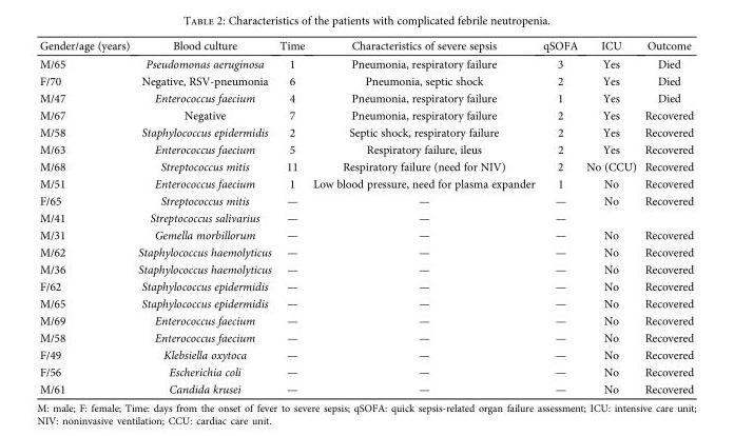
<table><thead><tr><td>Gender/age (years)</td><td>Blood culture</td><td>Time</td><td>Characteristics of severe sepsis</td><td>qSOFA</td><td>ICU</td><td>Outcome</td></tr></thead><tbody><tr><td>M/65</td><td>Pseudomonas aeruginosa</td><td>1</td><td>Pneumonia, respiratory failure</td><td>3</td><td>Yes</td><td>Died</td></tr><tr><td>F/70</td><td>Negative, RSV-pneumonia</td><td>6</td><td>Pneumonia, septic shock</td><td>2</td><td>Yes</td><td>Died</td></tr><tr><td>M/47</td><td>Enterococcus faecium</td><td>4</td><td>Pneumonia, respiratory failure</td><td>1</td><td>Yes</td><td>Died</td></tr><tr><td>M/67</td><td>Negative</td><td>7</td><td>Pneumonia, respiratory failure</td><td>2</td><td>Yes</td><td>Recovered</td></tr><tr><td>M/58</td><td>Staphylococcus epidermidis</td><td>2</td><td>Septic shock, respiratory failure</td><td>2</td><td>Yes</td><td>Recovered</td></tr><tr><td>M/63</td><td>Enterococcus faecium</td><td>5</td><td>Respiratory failure, ileus</td><td>2</td><td>Yes</td><td>Recovered</td></tr><tr><td>M/68</td><td>Streptococcus mitis</td><td>11</td><td>Respiratory failure (need for NIV)</td><td>2</td><td>No (CCU)</td><td>Recovered</td></tr><tr><td>M/51</td><td>Enterococcus faecium</td><td>1</td><td>Low blood pressure, need for plasma expander</td><td>1</td><td>No</td><td>Recovered</td></tr><tr><td>F/65</td><td>Streptococcus mitis</td><td>—</td><td>—</td><td>—</td><td>No</td><td>Recovered</td></tr><tr><td>M/41</td><td>Streptococcus salivarius</td><td>—</td><td>—</td><td>—</td><td></td><td></td></tr><tr><td>M/31</td><td>Gemella morbillorum</td><td>—</td><td>—</td><td>—</td><td>No</td><td>Recovered</td></tr><tr><td>M/62</td><td>Staphylococcus haemolyticus</td><td>—</td><td>—</td><td>—</td><td>No</td><td>Recovered</td></tr><tr><td>M/36</td><td>Staphylococcus haemolyticus</td><td>—</td><td>—</td><td>—</td><td>No</td><td>Recovered</td></tr><tr><td>F/62</td><td>Staphylococcus epidermidis</td><td>—</td><td>—</td><td>—</td><td>No</td><td>Recovered</td></tr><tr><td>M/65</td><td>Staphylococcus epidermidis</td><td>—</td><td>—</td><td>—</td><td>No</td><td>Recovered</td></tr><tr><td>M/69</td><td>Enterococcus faecium</td><td>—</td><td>—</td><td>—</td><td>No</td><td>Recovered</td></tr><tr><td>M/58</td><td>Enterococcus faecium</td><td>—</td><td>—</td><td>—</td><td>No</td><td>Recovered</td></tr><tr><td>F/49</td><td>Klebsiella oxytoca</td><td>—</td><td>—</td><td>—</td><td>No</td><td>Recovered</td></tr><tr><td>F/56</td><td>Escherichia coli</td><td>—</td><td>—</td><td>—</td><td>No</td><td>Recovered</td></tr><tr><td>M/61</td><td>Candida krusei</td><td>—</td><td>—</td><td>—</td><td>No</td><td>Recovered</td></tr></tbody></table>